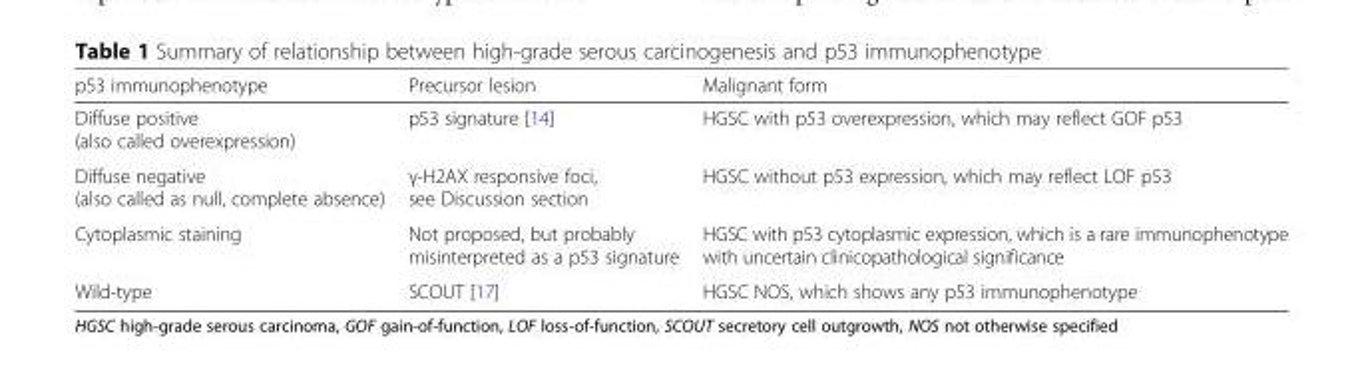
<table><thead><tr><td>p53 immunophenotype</td><td>Precursor lesion</td><td>Malignant form</td></tr></thead><tbody><tr><td>Diffuse positive (also called overexpression)</td><td>p53 signature [14]</td><td>HGSC with p53 overexpression, which may reflect GOF p53</td></tr><tr><td>Diffuse negative (also called as null, complete absence)</td><td>γ-H2AX responsive foci, see Discussion section</td><td>HGSC without p53 expression, which may reflect LOF p53</td></tr><tr><td>Cytoplasmic staining</td><td>Not proposed, but probably misinterpreted as a p53 signature</td><td>HGSC with p53 cytoplasmic expression, which is a rare immunophenotype with uncertain clinicopathological significance</td></tr><tr><td>Wild-type</td><td>SCOUT [17]</td><td>HGSC NOS, which shows any p53 immunophenotype</td></tr></tbody></table>